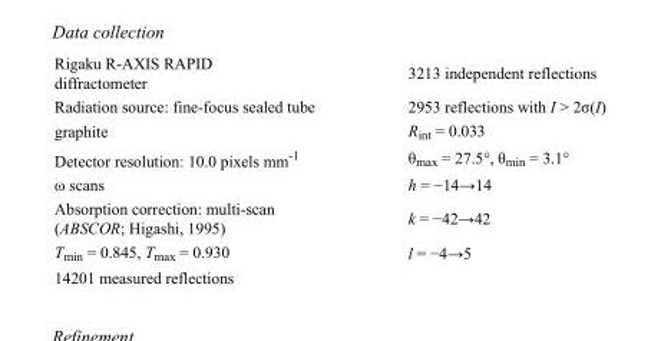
<table><tbody><tr><td>Rigaku R-AXIS RAPID diffractometer</td><td>3213 independent reflections</td></tr><tr><td>Radiation source: fine-focus sealed tube</td><td>2953 reflections with I &gt; 2σ(I)</td></tr><tr><td>graphite</td><td>R<sub>int</sub> = 0.033</td></tr><tr><td>Detector resolution: 10.0 pixels mm<sup>-1</sup></td><td>θ<sub>max</sub> = 27.5°, θ<sub>min</sub> = 3.1°</td></tr><tr><td>ω scans</td><td>h = −14→14</td></tr><tr><td>Absorption correction: multi-scan (ABSCOR; Higashi, 1995)</td><td>k = −42→42</td></tr><tr><td>T<sub>min</sub> = 0.845, T<sub>max</sub> = 0.930</td><td>l = −4→5</td></tr><tr><td>14201 measured reflections</td><td></td></tr></tbody></table>